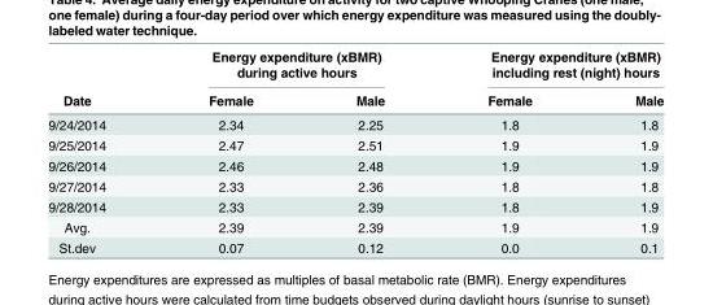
<table><thead><tr><td rowspan="2">Date</td><td colspan="2">Energy expenditure (xBMR) during active hours</td><td colspan="2">Energy expenditure (xBMR) including rest (night) hours</td></tr><tr><td>Female</td><td>Male</td><td>Female</td><td>Male</td></tr></thead><tbody><tr><td>9/24/2014</td><td>2.34</td><td>2.25</td><td>1.8</td><td>1.8</td></tr><tr><td>9/25/2014</td><td>2.47</td><td>2.51</td><td>1.9</td><td>1.9</td></tr><tr><td>9/26/2014</td><td>2.46</td><td>2.48</td><td>1.9</td><td>1.9</td></tr><tr><td>9/27/2014</td><td>2.33</td><td>2.36</td><td>1.8</td><td>1.8</td></tr><tr><td>9/28/2014</td><td>2.33</td><td>2.39</td><td>1.8</td><td>1.9</td></tr><tr><td>Avg.</td><td>2.39</td><td>2.39</td><td>1.9</td><td>1.9</td></tr><tr><td>St.dev</td><td>0.07</td><td>0.12</td><td>0.0</td><td>0.1</td></tr></tbody></table>